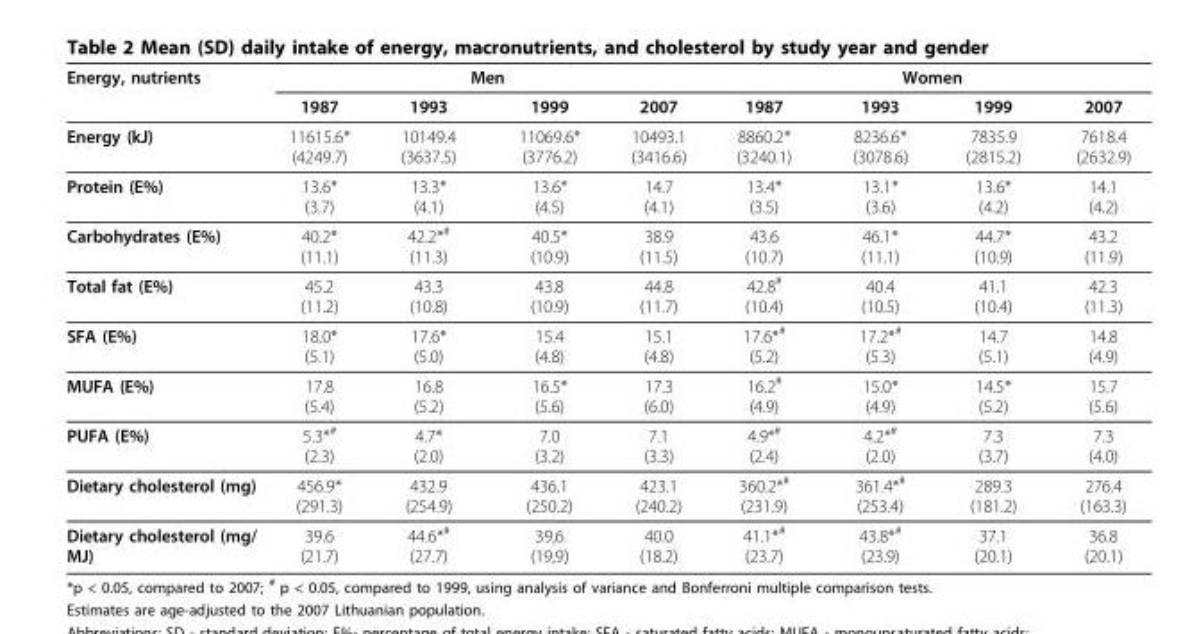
<table><thead><tr><td rowspan="2">Energy, nutrients</td><td colspan="4">Men</td><td colspan="4">Women</td></tr><tr><td>1987</td><td>1993</td><td>1999</td><td>2007</td><td>1987</td><td>1993</td><td>1999</td><td>2007</td></tr></thead><tbody><tr><td>Energy (kJ)</td><td>11615.6* (4249.7)</td><td>10149.4 (3637.5)</td><td>11069.6* (3776.2)</td><td>10493.1 (3416.6)</td><td>8860.2* (3240.1)</td><td>8236.6* (3078.6)</td><td>7835.9 (2815.2)</td><td>7618.4 (2632.9)</td></tr><tr><td>Protein (E%)</td><td>13.6* (3.7)</td><td>13.3* (4.1)</td><td>13.6* (4.5)</td><td>14.7 (4.1)</td><td>13.4* (3.5)</td><td>13.1* (3.6)</td><td>13.6* (4.2)</td><td>14.1 (4.2)</td></tr><tr><td>Carbohydrates (E%)</td><td>40.2* (11.1)</td><td>42.2*<sup>#</sup> (11.3)</td><td>40.5* (10.9)</td><td>38.9 (11.5)</td><td>43.6 (10.7)</td><td>46.1* (11.1)</td><td>44.7* (10.9)</td><td>43.2 (11.9)</td></tr><tr><td>Total fat (E%)</td><td>45.2 (11.2)</td><td>43.3 (10.8)</td><td>43.8 (10.9)</td><td>44.8 (11.7)</td><td>42.8<sup>#</sup> (10.4)</td><td>40.4 (10.5)</td><td>41.1 (10.4)</td><td>42.3 (11.3)</td></tr><tr><td>SFA (E%)</td><td>18.0* (5.1)</td><td>17.6* (5.0)</td><td>15.4 (4.8)</td><td>15.1 (4.8)</td><td>17.6*<sup>#</sup> (5.2)</td><td>17.2*<sup>#</sup> (5.3)</td><td>14.7 (5.1)</td><td>14.8 (4.9)</td></tr><tr><td>MUFA (E%)</td><td>17.8 (5.4)</td><td>16.8 (5.2)</td><td>16.5* (5.6)</td><td>17.3 (6.0)</td><td>16.2<sup>#</sup> (4.9)</td><td>15.0* (4.9)</td><td>14.5* (5.2)</td><td>15.7 (5.6)</td></tr><tr><td>PUFA (E%)</td><td>5.3*<sup>#</sup> (2.3)</td><td>4.7* (2.0)</td><td>7.0 (3.2)</td><td>7.1 (3.3)</td><td>4.9*<sup>#</sup> (2.4)</td><td>4.2*<sup>#</sup> (2.0)</td><td>7.3 (3.7)</td><td>7.3 (4.0)</td></tr><tr><td>Dietary cholesterol (mg)</td><td>456.9* (291.3)</td><td>432.9 (254.9)</td><td>436.1 (250.2)</td><td>423.1 (240.2)</td><td>360.2*<sup>#</sup> (231.9)</td><td>361.4*<sup>#</sup> (253.4)</td><td>289.3 (181.2)</td><td>276.4 (163.3)</td></tr><tr><td>Dietary cholesterol (mg/ MJ)</td><td>39.6 (21.7)</td><td>44.6*<sup>#</sup> (27.7)</td><td>39,6 (19,9)</td><td>40.0 (18.2)</td><td>41.1*<sup>#</sup> (23.7)</td><td>43.8*<sup>#</sup> (23.9)</td><td>37.1 (20.1)</td><td>36.8 (20.1)</td></tr></tbody></table>